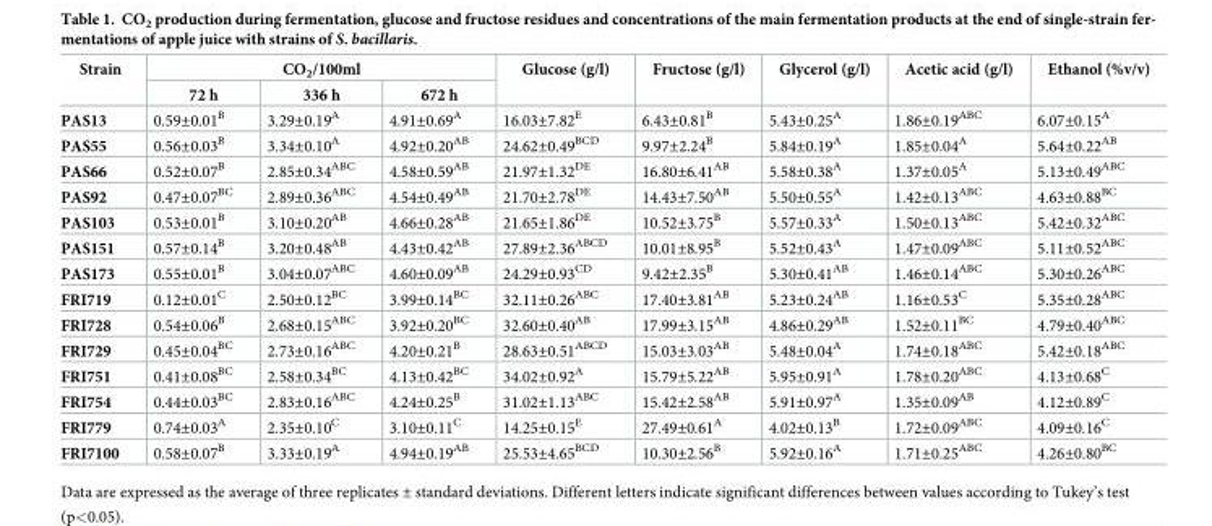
<table><thead><tr><td rowspan="2">Strain</td><td colspan="3">CO<sub>2</sub>/100ml</td><td rowspan="2">Glucose (g/l)</td><td rowspan="2">Fructose (g/l)</td><td rowspan="2">Glycerol (g/l)</td><td rowspan="2">Acetic acid (g/l)</td><td rowspan="2">Ethanol (%v/v)</td></tr><tr><td>72 h</td><td>336 h</td><td>672 h</td></tr></thead><tbody><tr><td>PAS13</td><td>0.59±0.01<sup>B</sup></td><td>3.29±0.19<sup>A</sup></td><td>4.91±0.69<sup>A</sup></td><td>16.03±7.82<sup>E</sup></td><td>6.43±0.81<sup>B</sup></td><td>5.43±0.25<sup>A</sup></td><td>1.86±0.19<sup>ABC</sup></td><td>6.07±0.15<sup>A</sup></td></tr><tr><td>PAS55</td><td>0.56±0.03<sup>B</sup></td><td>3.34±0.10<sup>A</sup></td><td>4.92±0.20<sup>AB</sup></td><td>24.62±0.49<sup>BCD</sup></td><td>9.97±2.24<sup>B</sup></td><td>5.84±0.19<sup>A</sup></td><td>1.85±0.04<sup>A</sup></td><td>5.64±0.22<sup>AB</sup></td></tr><tr><td>PAS66</td><td>0.52±0.07<sup>B</sup></td><td>2.85±0.34<sup>ABC</sup></td><td>4.58±0.59<sup>AB</sup></td><td>21.97±1.32<sup>DE</sup></td><td>16.80±6.41<sup>AB</sup></td><td>5.58±0.38<sup>A</sup></td><td>1.37±0.05<sup>A</sup></td><td>5.13±0.49<sup>ABC</sup></td></tr><tr><td>PAS92</td><td>0.47±0.07<sup>BC</sup></td><td>2.89±0.36<sup>ABC</sup></td><td>4.54±0.49<sup>AB</sup></td><td>21.70±2.78<sup>DE</sup></td><td>14.43±7.50<sup>AB</sup></td><td>5.50±0.55<sup>A</sup></td><td>1.42±0.13<sup>ABC</sup></td><td>4.63±0.88<sup>BC</sup></td></tr><tr><td>PAS103</td><td>0.53±0.01<sup>B</sup></td><td>3.10±0.20<sup>AB</sup></td><td>4.66±0.28<sup>AB</sup></td><td>21.65±1.86<sup>DE</sup></td><td>10.52±3.75<sup>B</sup></td><td>5.57±0.33<sup>A</sup></td><td>1.50±0.13<sup>ABC</sup></td><td>5.42±0.32<sup>ABC</sup></td></tr><tr><td>PAS151</td><td>0.57±0.14<sup>B</sup></td><td>3.20±0.48<sup>AB</sup></td><td>4.43±0.42<sup>AB</sup></td><td>27.89±2.36<sup>ABCD</sup></td><td>10.01±8.95<sup>B</sup></td><td>5.52±0.43<sup>A</sup></td><td>1.47±0.09<sup>ABC</sup></td><td>5.11±0.52<sup>ABC</sup></td></tr><tr><td>PAS173</td><td>0.55±0.01<sup>B</sup></td><td>3.04±0.07<sup>ABC</sup></td><td>4.60±0.09<sup>AB</sup></td><td>24.29±0.93<sup>CD</sup></td><td>9.42±2.35<sup>B</sup></td><td>5.30±0.41<sup>AB</sup></td><td>1.46±0.14<sup>ABC</sup></td><td>5.30±0.26<sup>ABC</sup></td></tr><tr><td>FRI719</td><td>0.12±0.01<sup>C</sup></td><td>2.50±0.12<sup>BC</sup></td><td>3.99±0.14<sup>BC</sup></td><td>32.11±0.26<sup>ABC</sup></td><td>17.40±3.81<sup>AB</sup></td><td>5.23±0.24<sup>AB</sup></td><td>1.16±0.53<sup>C</sup></td><td>5.35±0.28<sup>ABC</sup></td></tr><tr><td>FRI728</td><td>0.54±0.06<sup>B</sup></td><td>2.68±0.15<sup>ABC</sup></td><td>3.92±0.20<sup>BC</sup></td><td>32.60±0.40<sup>AB</sup></td><td>17.99±3.15<sup>AB</sup></td><td>4.86±0.29<sup>AB</sup></td><td>1.52±0.11<sup>BC</sup></td><td>4.79±0.40<sup>ABC</sup></td></tr><tr><td>FRI729</td><td>0.45±0.04<sup>BC</sup></td><td>2.73±0.16<sup>ABC</sup></td><td>4.20±0.21<sup>B</sup></td><td>28.63±0.51<sup>ABCD</sup></td><td>15.03±3.03<sup>AB</sup></td><td>5.48±0.04<sup>A</sup></td><td>1.74±0.18<sup>ABC</sup></td><td>5.42±0.18<sup>ABC</sup></td></tr><tr><td>FRI751</td><td>0.41±0.08<sup>BC</sup></td><td>2.58±0.34<sup>BC</sup></td><td>4.13±0.42<sup>BC</sup></td><td>34.02±0.92<sup>A</sup></td><td>15.79±5.22<sup>AB</sup></td><td>5.95±0.91<sup>A</sup></td><td>1.78±0.20<sup>ABC</sup></td><td>4.13±0.68<sup>C</sup></td></tr><tr><td>FRI754</td><td>0.44±0.03<sup>BC</sup></td><td>2.83±0.16<sup>ABC</sup></td><td>4.24±0.25<sup>B</sup></td><td>31.02±1.13<sup>ABC</sup></td><td>15.42±2.58<sup>AB</sup></td><td>5.91±0.97<sup>A</sup></td><td>1.35±0.09<sup>AB</sup></td><td>4.12±0.89<sup>C</sup></td></tr><tr><td>FRI779</td><td>0.74±0.03<sup>A</sup></td><td>2.35±0.10<sup>C</sup></td><td>3.10±0.11<sup>C</sup></td><td>14.25±0.15<sup>E</sup></td><td>27.49±0.61<sup>A</sup></td><td>4.02±0.13<sup>B</sup></td><td>1.72±0.09<sup>ABC</sup></td><td>4.09±0.16<sup>C</sup></td></tr><tr><td>FRI7100</td><td>0.58±0.07<sup>B</sup></td><td>3.33±0.19<sup>A</sup></td><td>4.94±0.19<sup>AB</sup></td><td>25.53±4.65<sup>BCD</sup></td><td>10.30±2.56<sup>B</sup></td><td>5.92±0.16<sup>A</sup></td><td>1.71±0.25<sup>ABC</sup></td><td>4.26±0.80<sup>BC</sup></td></tr></tbody></table>